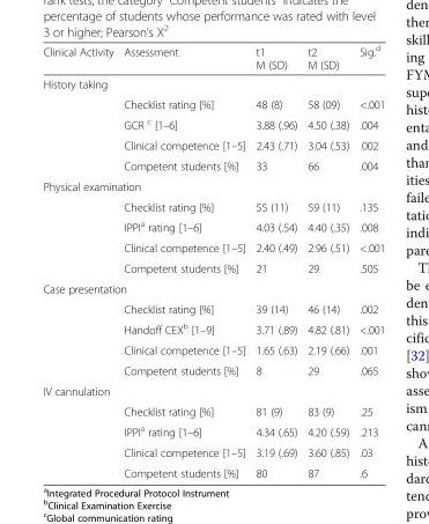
<table><thead><tr><td>Clinical Activity</td><td>Assessment</td><td>t1 M (SD)</td><td>t2 M (SD)</td><td>Sig.<sup>d</sup></td></tr></thead><tbody><tr><td colspan="5">History taking</td></tr><tr><td></td><td>Checklist rating [%]</td><td>48 (8)</td><td>58 (09)</td><td>&lt;.001</td></tr><tr><td></td><td>GCR <sup>c</sup> [1–6]</td><td>3.88 (.96)</td><td>4.50 (.38)</td><td>.004</td></tr><tr><td></td><td>Clinical competence [1–5]</td><td>2.43 (.71)</td><td>3.04 (.53)</td><td>.002</td></tr><tr><td></td><td>Competent students [%]</td><td>33</td><td>66</td><td>.004</td></tr><tr><td colspan="5">Physical examination</td></tr><tr><td></td><td>Checklist rating [%]</td><td>55 (11)</td><td>59 (11)</td><td>.135</td></tr><tr><td></td><td>IPPI<sup>a</sup> rating [1–6]</td><td>4.03 (.54)</td><td>4.40 (.35)</td><td>.008</td></tr><tr><td></td><td>Clinical competence [1–5]</td><td>2.40 (.49)</td><td>2.96 (.51)</td><td>&lt;.001</td></tr><tr><td></td><td>Competent students [%]</td><td>21</td><td>29</td><td>.505</td></tr><tr><td colspan="5">Case presentation</td></tr><tr><td></td><td>Checklist rating [%]</td><td>39 (14)</td><td>46 (14)</td><td>.002</td></tr><tr><td></td><td>Handoff CEX<sup>b</sup> [1–9]</td><td>3.71 (.89)</td><td>4.82 (.81)</td><td>&lt;.001</td></tr><tr><td></td><td>Clinical competence [1–5]</td><td>1.65 (.63)</td><td>2.19 (.66)</td><td>.001</td></tr><tr><td></td><td>Competent students [%]</td><td>8</td><td>29</td><td>.065</td></tr><tr><td colspan="5">IV cannulation</td></tr><tr><td></td><td>Checklist rating [%]</td><td>81 (9)</td><td>83 (9)</td><td>.25</td></tr><tr><td></td><td>IPPI<sup>a</sup> rating [1–6]</td><td>4.34 (.65)</td><td>4.20 (.59)</td><td>.213</td></tr><tr><td></td><td>Clinical competence [1–5]</td><td>3.19 (.69)</td><td>3.60 (.85)</td><td>.03</td></tr><tr><td></td><td>Competent students [%]</td><td>80</td><td>87</td><td>.6</td></tr></tbody></table>